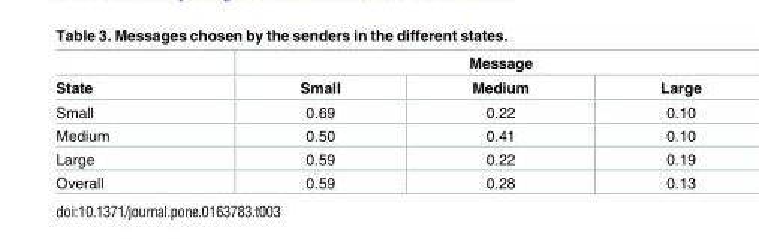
<table><thead><tr><td rowspan="2">State</td><td colspan="3">Message</td></tr><tr><td>Small</td><td>Medium</td><td>Large</td></tr></thead><tbody><tr><td>Small</td><td>0.69</td><td>0.22</td><td>0.10</td></tr><tr><td>Medium</td><td>0.50</td><td>0.41</td><td>0.10</td></tr><tr><td>Large</td><td>0.59</td><td>0.22</td><td>0.19</td></tr><tr><td>Overall</td><td>0.59</td><td>0.28</td><td>0.13</td></tr></tbody></table>